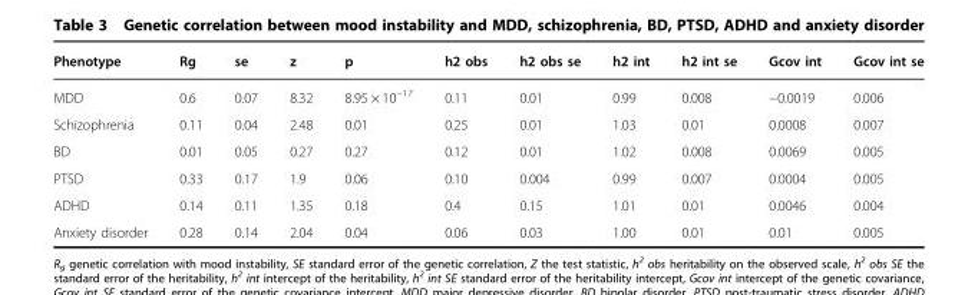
<table><thead><tr><td>Phenotype</td><td>Rg</td><td>se</td><td>z</td><td>p</td><td>h2 obs</td><td>h2 obs se</td><td>h2 int</td><td>h2 int se</td><td>Gcov int</td><td>Gcov int se</td></tr></thead><tbody><tr><td>MDD</td><td>0.6</td><td>0.07</td><td>8.32</td><td>8.95 × 10<sup>−17</sup></td><td>0.11</td><td>0.01</td><td>0.99</td><td>0.008</td><td>−0.0019</td><td>0.006</td></tr><tr><td>Schizophrenia</td><td>0.11</td><td>0.04</td><td>2.48</td><td>0.01</td><td>0.25</td><td>0.01</td><td>1.03</td><td>0.01</td><td>0.0008</td><td>0.007</td></tr><tr><td>BD</td><td>0.01</td><td>0.05</td><td>0.27</td><td>0.27</td><td>0.12</td><td>0.01</td><td>1.02</td><td>0.008</td><td>0.0069</td><td>0.005</td></tr><tr><td>PTSD</td><td>0.33</td><td>0.17</td><td>1.9</td><td>0.06</td><td>0.10</td><td>0.004</td><td>0.99</td><td>0.007</td><td>0.0004</td><td>0.005</td></tr><tr><td>ADHD</td><td>0.14</td><td>0.11</td><td>1.35</td><td>0.18</td><td>0.4</td><td>0.15</td><td>1.01</td><td>0.01</td><td>0.0046</td><td>0.004</td></tr><tr><td>Anxiety disorder</td><td>0.28</td><td>0.14</td><td>2.04</td><td>0.04</td><td>0.06</td><td>0.03</td><td>1.00</td><td>0.01</td><td>0.01</td><td>0.005</td></tr></tbody></table>